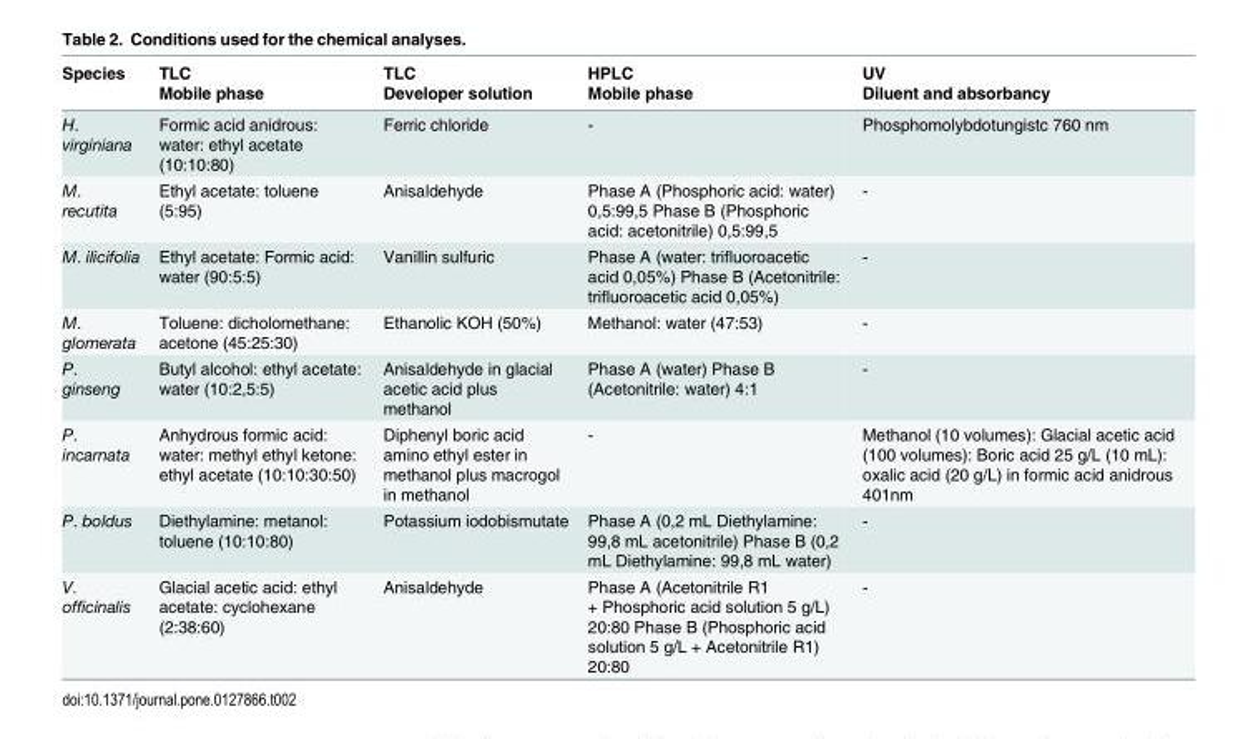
<table><thead><tr><td rowspan="2">Species</td><td rowspan="2">TLC Mobile phase</td><td rowspan="2">TLC Developer solution</td><td rowspan="2">HPLC Mobile phase</td><td rowspan="2">UV Diluent and absorbancy</td></tr><tr></tr></thead><tbody><tr><td>H. virginiana</td><td>Formic acid anidrous: water: ethyl acetate (10:10:80)</td><td>Ferric chloride</td><td>-</td><td>Phosphomolybdotungistc 760 nm</td></tr><tr><td>M. recutita</td><td>Ethyl acetate: toluene (5:95)</td><td>Anisaldehyde</td><td>Phase A (Phosphoric acid: water) 0,5:99,5 Phase B (Phosphoric acid: acetonitrile) 0,5:99,5</td><td>-</td></tr><tr><td>M. ilicifolia</td><td>Ethyl acetate: Formic acid: water (90:5:5)</td><td>Vanillin sulfuric</td><td>Phase A (water: trifluoroacetic acid 0,05%) Phase B (Acetonitrile: trifluoroacetic acid 0,05%)</td><td>-</td></tr><tr><td>M. glomerata</td><td>Toluene: dicholomethane: acetone (45:25:30)</td><td>Ethanolic KOH (50%)</td><td>Methanol: water (47:53)</td><td>-</td></tr><tr><td>P. ginseng</td><td>Butyl alcohol: ethyl acetate: water (10:2,5:5)</td><td>Anisaldehyde in glacial acetic acid plus methanol</td><td>Phase A (water) Phase B (Acetonitrile: water) 4:1</td><td>-</td></tr><tr><td>P. incarnata</td><td>Anhydrous formic acid: water: methyl ethyl ketone: ethyl acetate (10:10:30:50)</td><td>Diphenyl boric acid amino ethyl ester in methanol plus macrogol in methanol</td><td>-</td><td>Methanol (10 volumes): Glacial acetic acid (100 volumes): Boric acid 25 g/L (10 mL): oxalic acid (20 g/L) in formic acid anidrous 401nm</td></tr><tr><td>P. boldus</td><td>Diethylamine: metanol: toluene (10:10:80)</td><td>Potassium iodobismutate</td><td>Phase A (0,2 mL Diethylamine: 99,8 mL acetonitrile) Phase B (0,2 mL Diethylamine: 99,8 mL water)</td><td>-</td></tr><tr><td>V. officinalis</td><td>Glacial acetic acid: ethyl acetate: cyclohexane (2:38:60)</td><td>Anisaldehyde</td><td>Phase A (Acetonitrile R1 + Phosphoric acid solution 5 g/L) 20:80 Phase B (Phosphoric acid solution 5 g/L + Acetonitrile R1) 20:80</td><td>-</td></tr></tbody></table>